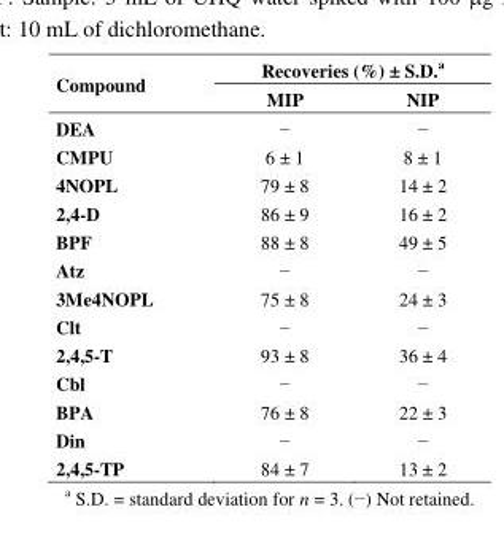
<table><thead><tr><td rowspan="2">Compound</td><td colspan="2">Recoveries (%) ± S.D.<sup>a</sup></td></tr><tr><td>MIP</td><td>NIP</td></tr></thead><tbody><tr><td>DEA</td><td>−</td><td>−</td></tr><tr><td>CMPU</td><td>6 ± 1</td><td>8 ± 1</td></tr><tr><td>4NOPL</td><td>79 ± 8</td><td>14 ± 2</td></tr><tr><td>2,4-D</td><td>86 ± 9</td><td>16 ± 2</td></tr><tr><td>BPF</td><td>88 ± 8</td><td>49 ± 5</td></tr><tr><td>Atz</td><td>−</td><td>−</td></tr><tr><td>3Me4NOPL</td><td>75 ± 8</td><td>24 ± 3</td></tr><tr><td>Clt</td><td>−</td><td>−</td></tr><tr><td>2,4,5-T</td><td>93 ± 8</td><td>36 ± 4</td></tr><tr><td>Cbl</td><td>−</td><td>−</td></tr><tr><td>BPA</td><td>76 ± 8</td><td>22 ± 3</td></tr><tr><td>Din</td><td>−</td><td>−</td></tr><tr><td>2,4,5-TP</td><td>84 ± 7</td><td>13 ± 2</td></tr></tbody></table>